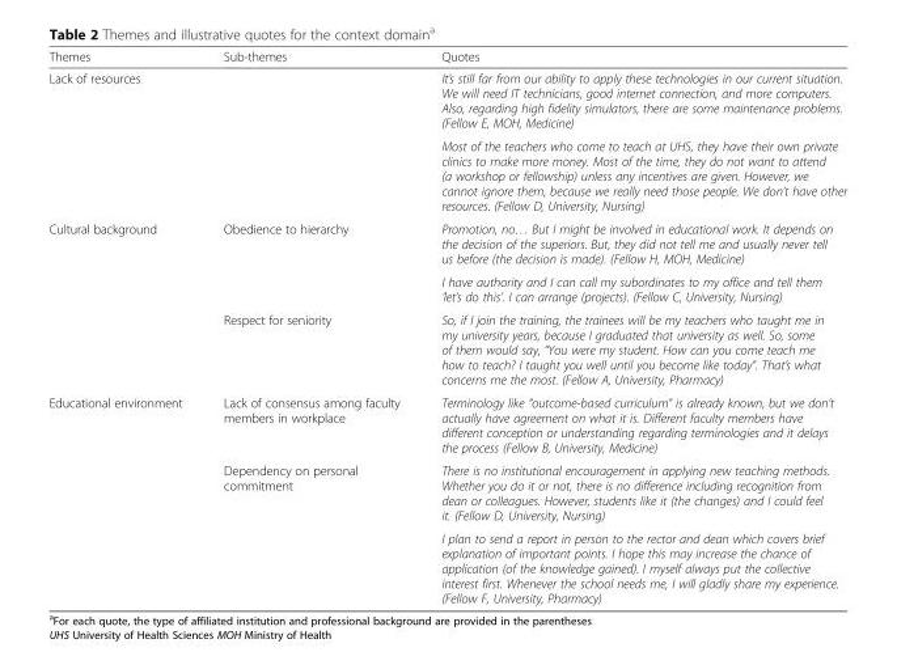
<table><thead><tr><td>Themes</td><td>Sub-themes</td><td>Quotes</td></tr></thead><tbody><tr><td rowspan="2">Lack of resources</td><td rowspan="2"></td><td>It’s still far from our ability to apply these technologies in our current situation. We will need IT technicians, good internet connection, and more computers. Also, regarding high fidelity simulators, there are some maintenance problems. (Fellow E, MOH, Medicine)</td></tr><tr><td>Most of the teachers who come to teach at UHS, they have their own private clinics to make more money. Most of the time, they do not want to attend (a workshop or fellowship) unless any incentives are given. However, we cannot ignore them, because we really need those people. We don’t have other resources. (Fellow D, University, Nursing)</td></tr><tr><td rowspan="3">Cultural background</td><td rowspan="2">Obedience to hierarchy</td><td>Promotion, no… But I might be involved in educational work. It depends on the decision of the superiors. But, they did not tell me and usually never tell us before (the decision is made). (Fellow H, MOH, Medicine)</td></tr><tr><td>I have authority and I can call my subordinates to my office and tell them ‘let’s do this’. I can arrange (projects). (Fellow C, University, Nursing)</td></tr><tr><td>Respect for seniority</td><td>So, if I join the training, the trainees will be my teachers who taught me in my university years, because I graduated that university as well. So, some of them would say, “You were my student. How can you come teach me how to teach? I taught you well until you become like today”. That’s what concerns me the most. (Fellow A, University, Pharmacy)</td></tr><tr><td rowspan="3">Educational environment</td><td>Lack of consensus among faculty members in workplace</td><td>Terminology like “outcome-based curriculum” is already known, but we don’t actually have agreement on what it is. Different faculty members have different conception or understanding regarding terminologies and it delays the process (Fellow B, University, Medicine)</td></tr><tr><td rowspan="2">Dependency on personal commitment</td><td>There is no institutional encouragement in applying new teaching methods. Whether you do it or not, there is no difference including recognition from dean or colleagues. However, students like it (the changes) and I could feel it. (Fellow D, University, Nursing)</td></tr><tr><td>I plan to send a report in person to the rector and dean which covers brief explanation of important points. I hope this may increase the chance of application (of the knowledge gained). I myself always put the collective interest first. Whenever the school needs me, I will gladly share my experience. (Fellow F, University, Pharmacy)</td></tr></tbody></table>